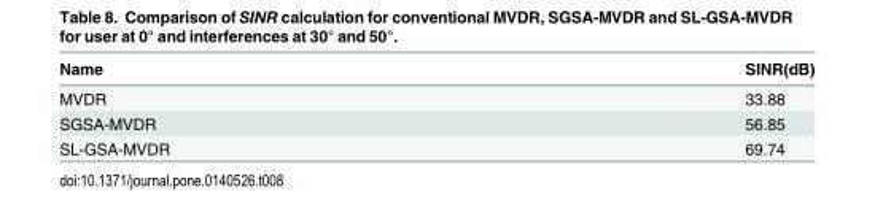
<table><thead><tr><td>Name</td><td>SINR(dB)</td></tr></thead><tbody><tr><td>MVDR</td><td>33.88</td></tr><tr><td>SGSA-MVDR</td><td>56.85</td></tr><tr><td>SL-GSA-MVDR</td><td>69.74</td></tr></tbody></table>